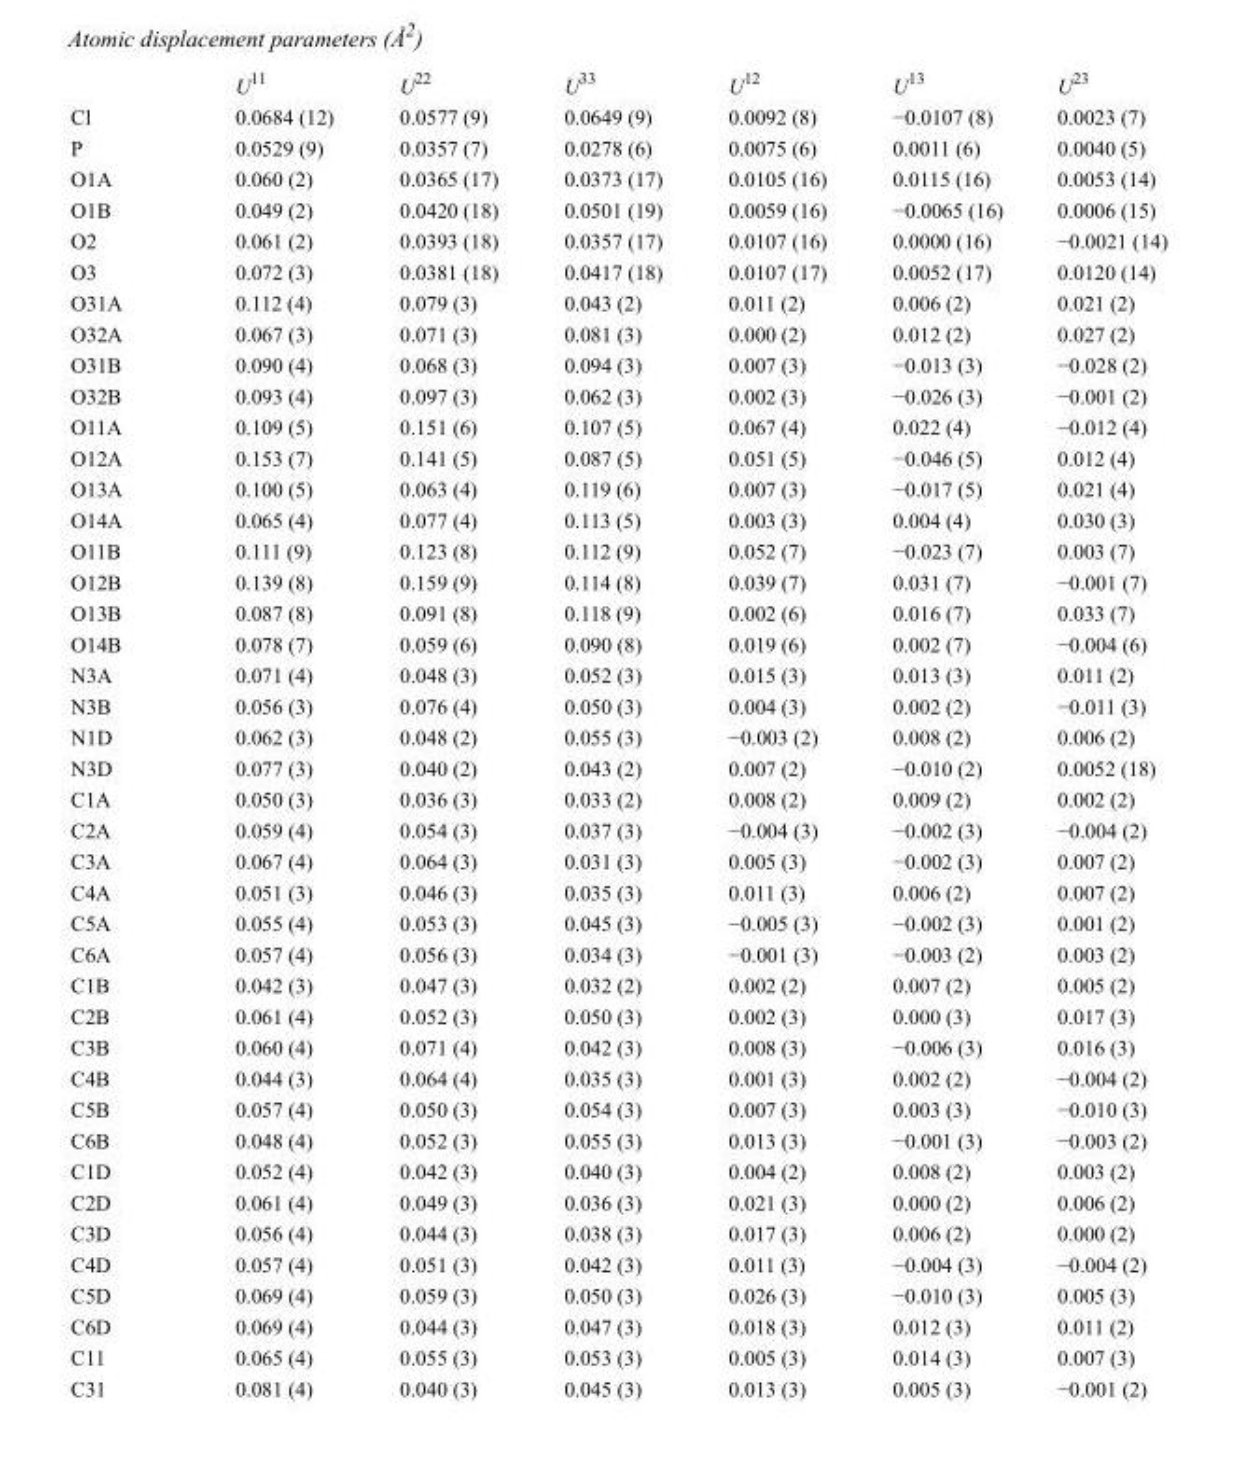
<table><thead><tr><td></td><td>U<sup>11</sup></td><td>U<sup>22</sup></td><td>U<sup>33</sup></td><td>U<sup>12</sup></td><td>U<sup>13</sup></td><td>U<sup>23</sup></td></tr></thead><tbody><tr><td>Cl</td><td>0.0684 (12)</td><td>0.0577 (9)</td><td>0.0649 (9)</td><td>0.0092 (8)</td><td>−0.0107 (8)</td><td>0.0023 (7)</td></tr><tr><td>P</td><td>0.0529 (9)</td><td>0.0357 (7)</td><td>0.0278 (6)</td><td>0.0075 (6)</td><td>0.0011 (6)</td><td>0.0040 (5)</td></tr><tr><td>O1A</td><td>0.060 (2)</td><td>0.0365 (17)</td><td>0.0373 (17)</td><td>0.0105 (16)</td><td>0.0115 (16)</td><td>0.0053 (14)</td></tr><tr><td>O1B</td><td>0.049 (2)</td><td>0.0420 (18)</td><td>0.0501 (19)</td><td>0.0059 (16)</td><td>−0.0065 (16)</td><td>0.0006 (15)</td></tr><tr><td>O2</td><td>0.061 (2)</td><td>0.0393 (18)</td><td>0.0357 (17)</td><td>0.0107 (16)</td><td>0.0000 (16)</td><td>−0.0021 (14)</td></tr><tr><td>O3</td><td>0.072 (3)</td><td>0.0381 (18)</td><td>0.0417 (18)</td><td>0.0107 (17)</td><td>0.0052 (17)</td><td>0.0120 (14)</td></tr><tr><td>O31A</td><td>0.112 (4)</td><td>0.079 (3)</td><td>0.043 (2)</td><td>0.011 (2)</td><td>0.006 (2)</td><td>0.021 (2)</td></tr><tr><td>O32A</td><td>0.067 (3)</td><td>0.071 (3)</td><td>0.081 (3)</td><td>0.000 (2)</td><td>0.012 (2)</td><td>0.027 (2)</td></tr><tr><td>O31B</td><td>0.090 (4)</td><td>0.068 (3)</td><td>0.094 (3)</td><td>0.007 (3)</td><td>−0.013 (3)</td><td>−0.028 (2)</td></tr><tr><td>O32B</td><td>0.093 (4)</td><td>0.097 (3)</td><td>0.062 (3)</td><td>0.002 (3)</td><td>−0.026 (3)</td><td>−0.001 (2)</td></tr><tr><td>O11A</td><td>0.109 (5)</td><td>0.151 (6)</td><td>0.107 (5)</td><td>0.067 (4)</td><td>0.022 (4)</td><td>−0.012 (4)</td></tr><tr><td>O12A</td><td>0.153 (7)</td><td>0.141 (5)</td><td>0.087 (5)</td><td>0.051 (5)</td><td>−0.046 (5)</td><td>0.012 (4)</td></tr><tr><td>O13A</td><td>0.100 (5)</td><td>0.063 (4)</td><td>0.119 (6)</td><td>0.007 (3)</td><td>−0.017 (5)</td><td>0.021 (4)</td></tr><tr><td>O14A</td><td>0.065 (4)</td><td>0.077 (4)</td><td>0.113 (5)</td><td>0.003 (3)</td><td>0.004 (4)</td><td>0.030 (3)</td></tr><tr><td>O11B</td><td>0.111 (9)</td><td>0.123 (8)</td><td>0.112 (9)</td><td>0.052 (7)</td><td>−0.023 (7)</td><td>0.003 (7)</td></tr><tr><td>O12B</td><td>0.139 (8)</td><td>0.159 (9)</td><td>0.114 (8)</td><td>0.039 (7)</td><td>0.031 (7)</td><td>−0.001 (7)</td></tr><tr><td>O13B</td><td>0.087 (8)</td><td>0.091 (8)</td><td>0.118 (9)</td><td>0.002 (6)</td><td>0.016 (7)</td><td>0.033 (7)</td></tr><tr><td>O14B</td><td>0.078 (7)</td><td>0.059 (6)</td><td>0.090 (8)</td><td>0.019 (6)</td><td>0.002 (7)</td><td>−0.004 (6)</td></tr><tr><td>N3A</td><td>0.071 (4)</td><td>0.048 (3)</td><td>0.052 (3)</td><td>0.015 (3)</td><td>0.013 (3)</td><td>0.011 (2)</td></tr><tr><td>N3B</td><td>0.056 (3)</td><td>0.076 (4)</td><td>0.050 (3)</td><td>0.004 (3)</td><td>0.002 (2)</td><td>−0.011 (3)</td></tr><tr><td>N1D</td><td>0.062 (3)</td><td>0.048 (2)</td><td>0.055 (3)</td><td>−0.003 (2)</td><td>0.008 (2)</td><td>0.006 (2)</td></tr><tr><td>N3D</td><td>0.077 (3)</td><td>0.040 (2)</td><td>0.043 (2)</td><td>0.007 (2)</td><td>−0.010 (2)</td><td>0.0052 (18)</td></tr><tr><td>C1A</td><td>0.050 (3)</td><td>0.036 (3)</td><td>0.033 (2)</td><td>0.008 (2)</td><td>0.009 (2)</td><td>0.002 (2)</td></tr><tr><td>C2A</td><td>0.059 (4)</td><td>0.054 (3)</td><td>0.037 (3)</td><td>−0.004 (3)</td><td>−0.002 (3)</td><td>−0.004 (2)</td></tr><tr><td>C3A</td><td>0.067 (4)</td><td>0.064 (3)</td><td>0.031 (3)</td><td>0.005 (3)</td><td>−0.002 (3)</td><td>0.007 (2)</td></tr><tr><td>C4A</td><td>0.051 (3)</td><td>0.046 (3)</td><td>0.035 (3)</td><td>0.011 (3)</td><td>0.006 (2)</td><td>0.007 (2)</td></tr><tr><td>C5A</td><td>0.055 (4)</td><td>0.053 (3)</td><td>0.045 (3)</td><td>−0.005 (3)</td><td>−0.002 (3)</td><td>0.001 (2)</td></tr><tr><td>C6A</td><td>0.057 (4)</td><td>0.056 (3)</td><td>0.034 (3)</td><td>−0.001 (3)</td><td>−0.003 (2)</td><td>0.003 (2)</td></tr><tr><td>C1B</td><td>0.042 (3)</td><td>0.047 (3)</td><td>0.032 (2)</td><td>0.002 (2)</td><td>0.007 (2)</td><td>0.005 (2)</td></tr><tr><td>C2B</td><td>0.061 (4)</td><td>0.052 (3)</td><td>0.050 (3)</td><td>0.002 (3)</td><td>0.000 (3)</td><td>0.017 (3)</td></tr><tr><td>C3B</td><td>0.060 (4)</td><td>0.071 (4)</td><td>0.042 (3)</td><td>0.008 (3)</td><td>−0.006 (3)</td><td>0.016 (3)</td></tr><tr><td>C4B</td><td>0.044 (3)</td><td>0.064 (4)</td><td>0.035 (3)</td><td>0.001 (3)</td><td>0.002 (2)</td><td>−0.004 (2)</td></tr><tr><td>C5B</td><td>0.057 (4)</td><td>0.050 (3)</td><td>0.054 (3)</td><td>0.007 (3)</td><td>0.003 (3)</td><td>−0.010 (3)</td></tr><tr><td>C6B</td><td>0.048 (4)</td><td>0.052 (3)</td><td>0.055 (3)</td><td>0.013 (3)</td><td>−0.001 (3)</td><td>−0.003 (2)</td></tr><tr><td>C1D</td><td>0.052 (4)</td><td>0.042 (3)</td><td>0.040 (3)</td><td>0.004 (2)</td><td>0.008 (2)</td><td>0.003 (2)</td></tr><tr><td>C2D</td><td>0.061 (4)</td><td>0.049 (3)</td><td>0.036 (3)</td><td>0.021 (3)</td><td>0.000 (2)</td><td>0.006 (2)</td></tr><tr><td>C3D</td><td>0.056 (4)</td><td>0.044 (3)</td><td>0.038 (3)</td><td>0.017 (3)</td><td>0.006 (2)</td><td>0.000 (2)</td></tr><tr><td>C4D</td><td>0.057 (4)</td><td>0.051 (3)</td><td>0.042 (3)</td><td>0.011 (3)</td><td>−0.004 (3)</td><td>−0.004 (2)</td></tr><tr><td>C5D</td><td>0.069 (4)</td><td>0.059 (3)</td><td>0.050 (3)</td><td>0.026 (3)</td><td>−0.010 (3)</td><td>0.005 (3)</td></tr><tr><td>C6D</td><td>0.069 (4)</td><td>0.044 (3)</td><td>0.047 (3)</td><td>0.018 (3)</td><td>0.012 (3)</td><td>0.011 (2)</td></tr><tr><td>C11</td><td>0.065 (4)</td><td>0.055 (3)</td><td>0.053 (3)</td><td>0.005 (3)</td><td>0.014 (3)</td><td>0.007 (3)</td></tr><tr><td>C31</td><td>0.081 (4)</td><td>0.040 (3)</td><td>0.045 (3)</td><td>0.013 (3)</td><td>0.005 (3)</td><td>−0.001 (2)</td></tr></tbody></table>